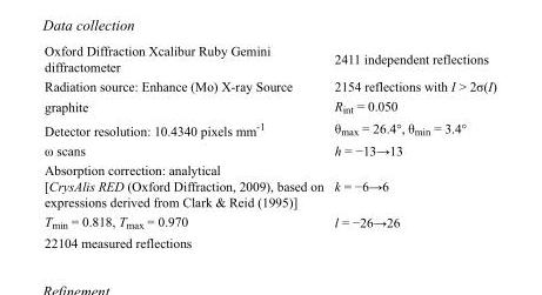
<table><tbody><tr><td>Oxford Diffraction Xcalibur Ruby Gemini diffractometer</td><td>2411 independent reflections</td></tr><tr><td>Radiation source: Enhance (Mo) X-ray Source</td><td>2154 reflections with I &gt; 2σ(I)</td></tr><tr><td>graphite</td><td>R<sub>int</sub> = 0.050</td></tr><tr><td>Detector resolution: 10.4340 pixels mm<sup>-1</sup></td><td>θ<sub>max</sub> = 26.4°, θ<sub>min</sub> = 3.4°</td></tr><tr><td>ω scans</td><td>h = −13→13</td></tr><tr><td>Absorption correction: analytical [CrysAlis RED (Oxford Diffraction, 2009), based on expressions derived from Clark &amp; Reid (1995)]</td><td>k = −6→6</td></tr><tr><td>T<sub>min</sub> = 0.818, T<sub>max</sub> = 0.970</td><td>l = −26→26</td></tr><tr><td>22104 measured reflections</td><td></td></tr></tbody></table>